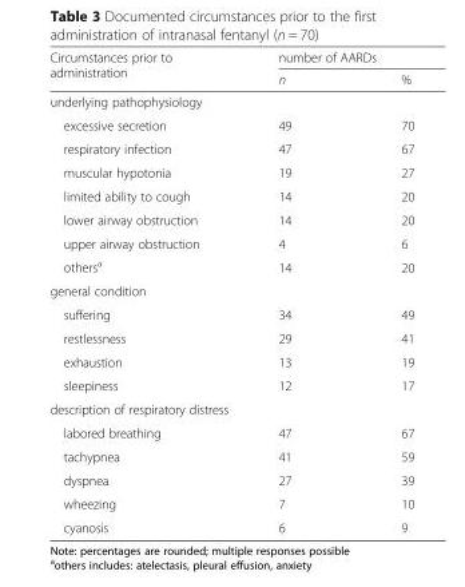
<table><thead><tr><td rowspan="2">Circumstances prior to administration</td><td colspan="2">number of AARDs</td></tr><tr><td>n</td><td>%</td></tr></thead><tbody><tr><td colspan="3">underlying pathophysiology</td></tr><tr><td>excessive secretion</td><td>49</td><td>70</td></tr><tr><td>respiratory infection</td><td>47</td><td>67</td></tr><tr><td>muscular hypotonia</td><td>19</td><td>27</td></tr><tr><td>limited ability to cough</td><td>14</td><td>20</td></tr><tr><td>lower airway obstruction</td><td>14</td><td>20</td></tr><tr><td>upper airway obstruction</td><td>4</td><td>6</td></tr><tr><td>others<sup>a</sup></td><td>14</td><td>20</td></tr><tr><td colspan="3">general condition</td></tr><tr><td>suffering</td><td>34</td><td>49</td></tr><tr><td>restlessness</td><td>29</td><td>41</td></tr><tr><td>exhaustion</td><td>13</td><td>19</td></tr><tr><td>sleepiness</td><td>12</td><td>17</td></tr><tr><td colspan="3">description of respiratory distress</td></tr><tr><td>labored breathing</td><td>47</td><td>67</td></tr><tr><td>tachypnea</td><td>41</td><td>59</td></tr><tr><td>dyspnea</td><td>27</td><td>39</td></tr><tr><td>wheezing</td><td>7</td><td>10</td></tr><tr><td>cyanosis</td><td>6</td><td>9</td></tr></tbody></table>